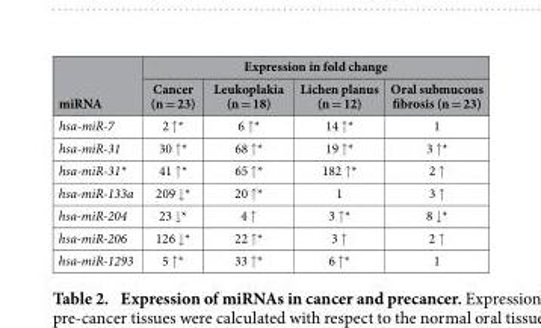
<table><thead><tr><td rowspan="2">miRNA</td><td colspan="4">Expression in fold change</td></tr><tr><td>Cancer (n = 23)</td><td>Leukoplakia (n = 18)</td><td>Lichen planus (n = 12)</td><td>Oral submucous fibrosis (n = 23)</td></tr></thead><tbody><tr><td>hsa-miR-7</td><td>2 ↑ *</td><td>6 ↑ *</td><td>14 ↑ *</td><td>1</td></tr><tr><td>hsa-miR-31</td><td>30 ↑ *</td><td>68 ↑ *</td><td>19 ↑ *</td><td>3 ↑ *</td></tr><tr><td>hsa-miR-31*</td><td>41 ↑ *</td><td>65 ↑ *</td><td>182 ↑ *</td><td>2 ↑</td></tr><tr><td>hsa-miR-133a</td><td>209 ↓ *</td><td>20 ↑ *</td><td>1</td><td>3 ↑</td></tr><tr><td>hsa-miR-204</td><td>23 ↓ *</td><td>4 ↑</td><td>3 ↑ *</td><td>8 ↓ *</td></tr><tr><td>hsa-miR-206</td><td>126 ↓ *</td><td>22 ↑ *</td><td>3 ↑</td><td>2 ↑</td></tr><tr><td>hsa-miR-1293</td><td>5 ↑ *</td><td>33 ↑ *</td><td>6 ↑ *</td><td>1</td></tr></tbody></table>